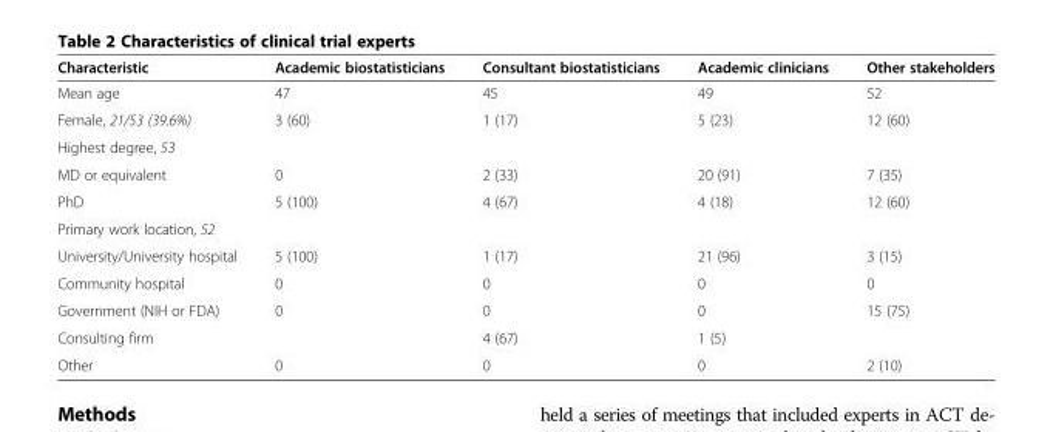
<table><thead><tr><td>Characteristic</td><td>Academic biostatisticians</td><td>Consultant biostatisticians</td><td>Academic clinicians</td><td>Other stakeholders</td></tr></thead><tbody><tr><td>Mean age</td><td>47</td><td>45</td><td>49</td><td>52</td></tr><tr><td>Female, 21/53 (39.6%)</td><td>3 (60)</td><td>1 (17)</td><td>5 (23)</td><td>12 (60)</td></tr><tr><td colspan="5">Highest degree, 53</td></tr><tr><td>MD or equivalent</td><td>0</td><td>2 (33)</td><td>20 (91)</td><td>7 (35)</td></tr><tr><td>PhD</td><td>5 (100)</td><td>4 (67)</td><td>4 (18)</td><td>12 (60)</td></tr><tr><td colspan="5">Primary work location, 52</td></tr><tr><td>University/University hospital</td><td>5 (100)</td><td>1 (17)</td><td>21 (96)</td><td>3 (15)</td></tr><tr><td>Community hospital</td><td>0</td><td>0</td><td>0</td><td>0</td></tr><tr><td>Government (NIH or FDA)</td><td>0</td><td>0</td><td>0</td><td>15 (75)</td></tr><tr><td>Consulting firm</td><td></td><td>4 (67)</td><td>1 (5)</td><td></td></tr><tr><td>Other</td><td>0</td><td>0</td><td>0</td><td>2 (10)</td></tr></tbody></table>